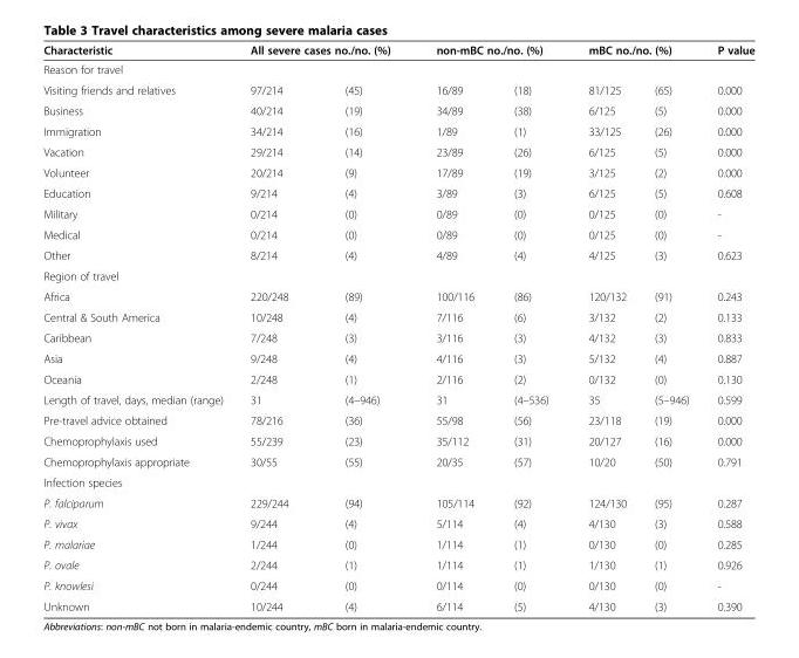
<table><thead><tr><td rowspan="3">Characteristic Reason for travel Visiting friends and relatives</td><td rowspan="2" colspan="2">All severe cases no./no. (%)</td><td rowspan="2" colspan="2">non-mBC no./no. (%)</td><td rowspan="2" colspan="2">mBC no./no. (%)</td><td rowspan="3">P value 0.000</td></tr><tr></tr><tr><td>97/214</td><td>(45)</td><td>16/89</td><td>(18)</td><td>81/125</td><td>(65)</td></tr></thead><tbody><tr><td>Business</td><td>40/214</td><td>(19)</td><td>34/89</td><td>(38)</td><td>6/125</td><td>(5)</td><td>0.000</td></tr><tr><td>Immigration</td><td>34/214</td><td>(16)</td><td>1/89</td><td>(1)</td><td>33/125</td><td>(26)</td><td>0.000</td></tr><tr><td>Vacation</td><td>29/214</td><td>(14)</td><td>23/89</td><td>(26)</td><td>6/125</td><td>(5)</td><td>0.000</td></tr><tr><td>Volunteer</td><td>20/214</td><td>(9)</td><td>17/89</td><td>(19)</td><td>3/125</td><td>(2)</td><td>0.000</td></tr><tr><td>Education</td><td>9/214</td><td>(4)</td><td>3/89</td><td>(3)</td><td>6/125</td><td>(5)</td><td>0.608</td></tr><tr><td>Military</td><td>0/214</td><td>(0)</td><td>0/89</td><td>(0)</td><td>0/125</td><td>(0)</td><td>-</td></tr><tr><td>Medical</td><td>0/214</td><td>(0)</td><td>0/89</td><td>(0)</td><td>0/125</td><td>(0)</td><td>-</td></tr><tr><td>Other</td><td>8/214</td><td>(4)</td><td>4/89</td><td>(4)</td><td>4/125</td><td>(3)</td><td>0.623</td></tr><tr><td colspan="8">Region of travel</td></tr><tr><td>Africa</td><td>220/248</td><td>(89)</td><td>100/116</td><td>(86)</td><td>120/132</td><td>(91)</td><td>0.243</td></tr><tr><td>Central &amp; South America</td><td>10/248</td><td>(4)</td><td>7/116</td><td>(6)</td><td>3/132</td><td>(2)</td><td>0.133</td></tr><tr><td>Caribbean</td><td>7/248</td><td>(3)</td><td>3/116</td><td>(3)</td><td>4/132</td><td>(3)</td><td>0.833</td></tr><tr><td>Asia</td><td>9/248</td><td>(4)</td><td>4/116</td><td>(3)</td><td>5/132</td><td>(4)</td><td>0.887</td></tr><tr><td>Oceania</td><td>2/248</td><td>(1)</td><td>2/116</td><td>(2)</td><td>0/132</td><td>(0)</td><td>0.130</td></tr><tr><td>Length of travel, days, median (range)</td><td>31</td><td>(4–946)</td><td>31</td><td>(4–536)</td><td>35</td><td>(5–946)</td><td>0.599</td></tr><tr><td>Pre-travel advice obtained</td><td>78/216</td><td>(36)</td><td>55/98</td><td>(56)</td><td>23/118</td><td>(19)</td><td>0.000</td></tr><tr><td>Chemoprophylaxis used</td><td>55/239</td><td>(23)</td><td>35/112</td><td>(31)</td><td>20/127</td><td>(16)</td><td>0.000</td></tr><tr><td>Chemoprophylaxis appropriate</td><td>30/55</td><td>(55)</td><td>20/35</td><td>(57)</td><td>10/20</td><td>(50)</td><td>0.791</td></tr><tr><td colspan="8">Infection species</td></tr><tr><td>P. falciparum</td><td>229/244</td><td>(94)</td><td>105/114</td><td>(92)</td><td>124/130</td><td>(95)</td><td>0.287</td></tr><tr><td>P. vivax</td><td>9/244</td><td>(4)</td><td>5/114</td><td>(4)</td><td>4/130</td><td>(3)</td><td>0.588</td></tr><tr><td>P. malariae</td><td>1/244</td><td>(0)</td><td>1/114</td><td>(1)</td><td>0/130</td><td>(0)</td><td>0.285</td></tr><tr><td>P. ovale</td><td>2/244</td><td>(1)</td><td>1/114</td><td>(1)</td><td>1/130</td><td>(1)</td><td>0.926</td></tr><tr><td>P. knowlesi</td><td>0/244</td><td>(0)</td><td>0/114</td><td>(0)</td><td>0/130</td><td>(0)</td><td>-</td></tr><tr><td>Unknown</td><td>10/244</td><td>(4)</td><td>6/114</td><td>(5)</td><td>4/130</td><td>(3)</td><td>0.390</td></tr></tbody></table>